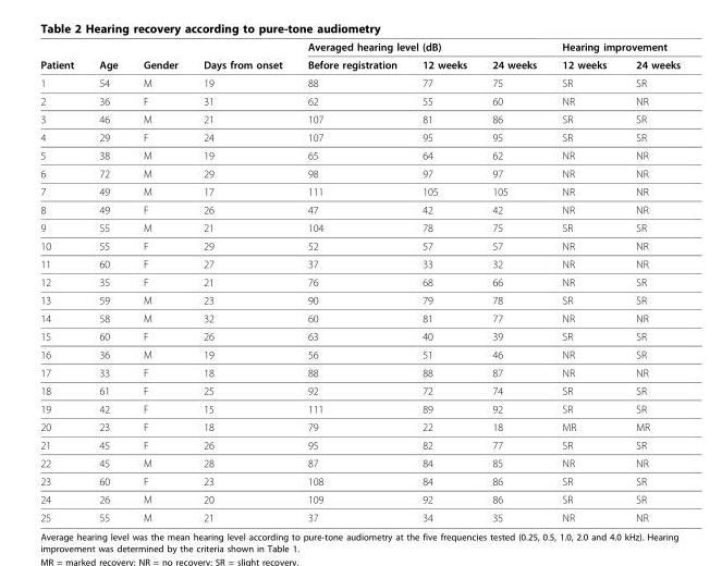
<table><thead><tr><td rowspan="2">Patient</td><td rowspan="2">Age</td><td rowspan="2">Gender</td><td rowspan="2">Days from onset</td><td colspan="3">Averaged hearing level (dB)</td><td colspan="2">Hearing improvement</td></tr><tr><td>Before registration</td><td>12 weeks</td><td>24 weeks</td><td>12 weeks</td><td>24 weeks</td></tr></thead><tbody><tr><td>1</td><td>54</td><td>M</td><td>19</td><td>88</td><td>77</td><td>75</td><td>SR</td><td>SR</td></tr><tr><td>2</td><td>36</td><td>F</td><td>31</td><td>62</td><td>55</td><td>60</td><td>NR</td><td>NR</td></tr><tr><td>3</td><td>46</td><td>M</td><td>21</td><td>107</td><td>81</td><td>86</td><td>SR</td><td>SR</td></tr><tr><td>4</td><td>29</td><td>F</td><td>24</td><td>107</td><td>95</td><td>95</td><td>SR</td><td>SR</td></tr><tr><td>5</td><td>38</td><td>M</td><td>19</td><td>65</td><td>64</td><td>62</td><td>NR</td><td>NR</td></tr><tr><td>6</td><td>72</td><td>M</td><td>29</td><td>98</td><td>97</td><td>97</td><td>NR</td><td>NR</td></tr><tr><td>7</td><td>49</td><td>M</td><td>17</td><td>111</td><td>105</td><td>105</td><td>NR</td><td>NR</td></tr><tr><td>8</td><td>49</td><td>F</td><td>26</td><td>47</td><td>42</td><td>42</td><td>NR</td><td>NR</td></tr><tr><td>9</td><td>55</td><td>M</td><td>21</td><td>104</td><td>78</td><td>75</td><td>SR</td><td>SR</td></tr><tr><td>10</td><td>55</td><td>F</td><td>29</td><td>52</td><td>57</td><td>57</td><td>NR</td><td>NR</td></tr><tr><td>11</td><td>60</td><td>F</td><td>27</td><td>37</td><td>33</td><td>32</td><td>NR</td><td>NR</td></tr><tr><td>12</td><td>35</td><td>F</td><td>21</td><td>76</td><td>68</td><td>66</td><td>NR</td><td>SR</td></tr><tr><td>13</td><td>59</td><td>M</td><td>23</td><td>90</td><td>79</td><td>78</td><td>SR</td><td>SR</td></tr><tr><td>14</td><td>58</td><td>M</td><td>32</td><td>60</td><td>81</td><td>77</td><td>NR</td><td>NR</td></tr><tr><td>15</td><td>60</td><td>F</td><td>26</td><td>63</td><td>40</td><td>39</td><td>SR</td><td>SR</td></tr><tr><td>16</td><td>36</td><td>M</td><td>19</td><td>56</td><td>51</td><td>46</td><td>NR</td><td>SR</td></tr><tr><td>17</td><td>33</td><td>F</td><td>18</td><td>88</td><td>88</td><td>87</td><td>NR</td><td>NR</td></tr><tr><td>18</td><td>61</td><td>F</td><td>25</td><td>92</td><td>72</td><td>74</td><td>SR</td><td>SR</td></tr><tr><td>19</td><td>42</td><td>F</td><td>15</td><td>111</td><td>89</td><td>92</td><td>SR</td><td>SR</td></tr><tr><td>20</td><td>23</td><td>F</td><td>18</td><td>79</td><td>22</td><td>18</td><td>MR</td><td>MR</td></tr><tr><td>21</td><td>45</td><td>F</td><td>26</td><td>95</td><td>82</td><td>77</td><td>SR</td><td>SR</td></tr><tr><td>22</td><td>45</td><td>M</td><td>28</td><td>87</td><td>84</td><td>85</td><td>NR</td><td>NR</td></tr><tr><td>23</td><td>60</td><td>F</td><td>23</td><td>108</td><td>84</td><td>86</td><td>SR</td><td>SR</td></tr><tr><td>24</td><td>26</td><td>M</td><td>20</td><td>109</td><td>92</td><td>86</td><td>SR</td><td>SR</td></tr><tr><td>25</td><td>55</td><td>M</td><td>21</td><td>37</td><td>34</td><td>35</td><td>NR</td><td>NR</td></tr></tbody></table>